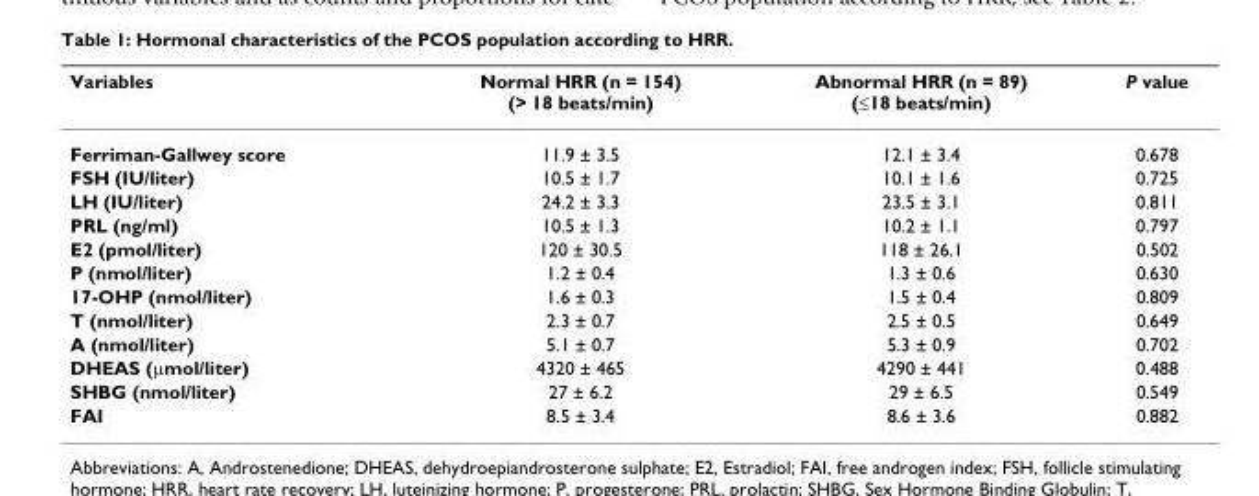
<table><thead><tr><td>Variables</td><td>Normal HRR (n = 154) (&gt; 18 beats/min)</td><td>Abnormal HRR (n = 89) (≤18 beats/min)</td><td>P value</td></tr></thead><tbody><tr><td>Ferriman-Gallwey score</td><td>11.9 ± 3.5</td><td>12.1 ± 3.4</td><td>0.678</td></tr><tr><td>FSH (IU/liter)</td><td>10.5 ± 1.7</td><td>10.1 ± 1.6</td><td>0.725</td></tr><tr><td>LH (IU/liter)</td><td>24.2 ± 3.3</td><td>23.5 ± 3.1</td><td>0.811</td></tr><tr><td>PRL (ng/ml)</td><td>10.5 ± 1.3</td><td>10.2 ± 1.1</td><td>0.797</td></tr><tr><td>E2 (pmol/liter)</td><td>120 ± 30.5</td><td>118 ± 26.1</td><td>0.502</td></tr><tr><td>P (nmol/liter)</td><td>1.2 ± 0.4</td><td>1.3 ± 0.6</td><td>0.630</td></tr><tr><td>17-OHP (nmol/liter)</td><td>1.6 ± 0.3</td><td>1.5 ± 0.4</td><td>0.809</td></tr><tr><td>T (nmol/liter)</td><td>2.3 ± 0.7</td><td>2.5 ± 0.5</td><td>0.649</td></tr><tr><td>A (nmol/liter)</td><td>5.1 ± 0.7</td><td>5.3 ± 0.9</td><td>0.702</td></tr><tr><td>DHEAS (μmol/liter)</td><td>4320 ± 465</td><td>4290 ± 441</td><td>0.488</td></tr><tr><td>SHBG (nmol/liter)</td><td>27 ± 6.2</td><td>29 ± 6.5</td><td>0.549</td></tr><tr><td>FAI</td><td>8.5 ± 3.4</td><td>8.6 ± 3.6</td><td>0.882</td></tr></tbody></table>